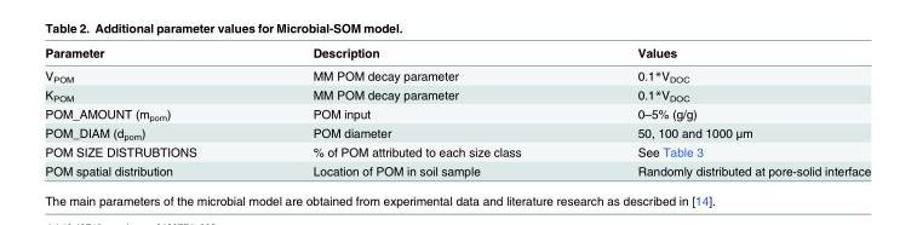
<table><thead><tr><td>Parameter</td><td>Description</td><td>Values</td></tr></thead><tbody><tr><td>V<sub>POM</sub></td><td>MM POM decay parameter</td><td>0.1*V<sub>DOC</sub></td></tr><tr><td>K<sub>POM</sub></td><td>MM POM decay parameter</td><td>0.1*V<sub>DOC</sub></td></tr><tr><td>POM_AMOUNT (m<sub>pom</sub>)</td><td>POM input</td><td>0–5% (g/g)</td></tr><tr><td>POM_DIAM (d<sub>pom</sub>)</td><td>POM diameter</td><td>50, 100 and 1000 μm</td></tr><tr><td>POM SIZE DISTRUBTIONS</td><td>% of POM attributed to each size class</td><td>See Table 3</td></tr><tr><td>POM spatial distribution</td><td>Location of POM in soil sample</td><td>Randomly distributed at pore-solid interface</td></tr></tbody></table>